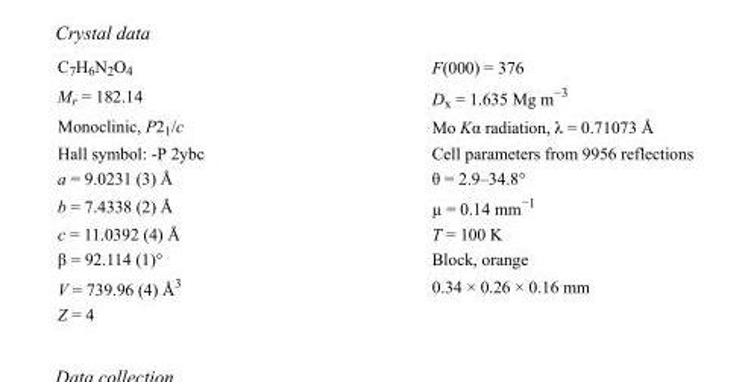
<table><tbody><tr><td>C<sub>7</sub>H<sub>6</sub>N<sub>2</sub>O<sub>4</sub></td><td>F(000) = 376</td></tr><tr><td>M<sub>r</sub> = 182.14</td><td>D<sub>x</sub> = 1.635 Mg m<sup>−3</sup></td></tr><tr><td>Monoclinic, P2<sub>1</sub>/c</td><td>Mo Kα radiation, λ = 0.71073 Å</td></tr><tr><td>Hall symbol: -P 2ybc</td><td>Cell parameters from 9956 reflections</td></tr><tr><td>a = 9.0231 (3) Å</td><td>θ = 2.9–34.8°</td></tr><tr><td>b = 7.4338 (2) Å</td><td>µ = 0.14 mm<sup>−1</sup></td></tr><tr><td>c = 11.0392 (4) Å</td><td>T = 100 K</td></tr><tr><td>β = 92.114 (1)°</td><td>Block, orange</td></tr><tr><td>V = 739.96 (4) Å<sup>3</sup></td><td>0.34 × 0.26 × 0.16 mm</td></tr><tr><td>Z = 4</td><td></td></tr></tbody></table>